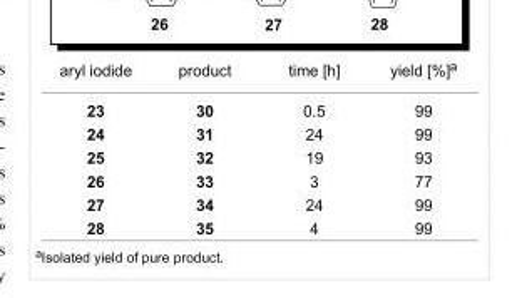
<table><tbody><tr><td>aryl iodide</td><td>product</td><td>time [h]</td><td>yield [%]<sup>a</sup></td></tr><tr><td>23</td><td>30</td><td>0.5</td><td>99</td></tr><tr><td>24</td><td>31</td><td>24</td><td>99</td></tr><tr><td>25</td><td>32</td><td>19</td><td>93</td></tr><tr><td>26</td><td>33</td><td>3</td><td>77</td></tr><tr><td>27</td><td>34</td><td>24</td><td>99</td></tr><tr><td>28</td><td>35</td><td>4</td><td>99</td></tr></tbody></table>